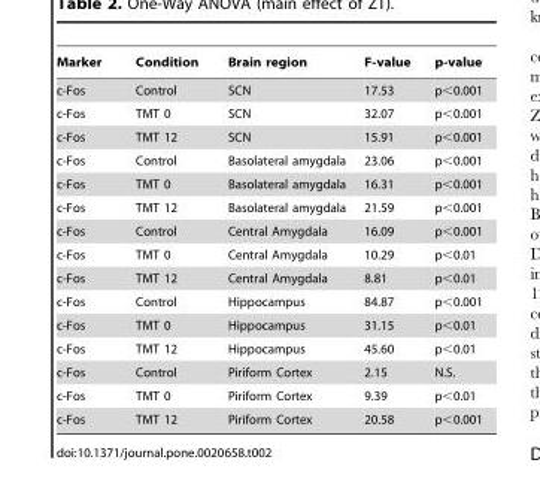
<table><thead><tr><td>Marker</td><td>Condition</td><td>Brain region</td><td>F-value</td><td>p-value</td></tr></thead><tbody><tr><td>c-Fos</td><td>Control</td><td>SCN</td><td>17.53</td><td>p&lt;0.001</td></tr><tr><td>c-Fos</td><td>TMT 0</td><td>SCN</td><td>32.07</td><td>p&lt;0.001</td></tr><tr><td>c-Fos</td><td>TMT 12</td><td>SCN</td><td>15.91</td><td>p&lt;0.001</td></tr><tr><td>c-Fos</td><td>Control</td><td>Basolateral amygdala</td><td>23.06</td><td>p&lt;0.001</td></tr><tr><td>c-Fos</td><td>TMT 0</td><td>Basolateral amygdala</td><td>16.31</td><td>p&lt;0.001</td></tr><tr><td>c-Fos</td><td>TMT 12</td><td>Basolateral amygdala</td><td>21.59</td><td>p&lt;0.001</td></tr><tr><td>c-Fos</td><td>Control</td><td>Central Amygdala</td><td>16.09</td><td>p&lt;0.001</td></tr><tr><td>c-Fos</td><td>TMT 0</td><td>Central Amygdala</td><td>10.29</td><td>p&lt;0.01</td></tr><tr><td>c-Fos</td><td>TMT 12</td><td>Central Amygdala</td><td>8.81</td><td>p&lt;0.01</td></tr><tr><td>c-Fos</td><td>Control</td><td>Hippocampus</td><td>84.87</td><td>p&lt;0.001</td></tr><tr><td>c-Fos</td><td>TMT 0</td><td>Hippocampus</td><td>31.15</td><td>p&lt;0.01</td></tr><tr><td>c-Fos</td><td>TMT 12</td><td>Hippocampus</td><td>45.60</td><td>p&lt;0.01</td></tr><tr><td>c-Fos</td><td>Control</td><td>Piriform Cortex</td><td>2.15</td><td>N.S.</td></tr><tr><td>c-Fos</td><td>TMT 0</td><td>Piriform Cortex</td><td>9.39</td><td>p&lt;0.01</td></tr><tr><td>c-Fos</td><td>TMT 12</td><td>Piriform Cortex</td><td>20.58</td><td>p&lt;0.001</td></tr></tbody></table>